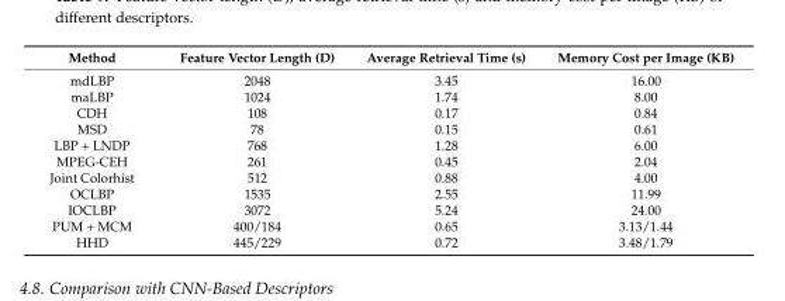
<table><thead><tr><td>Method</td><td>Feature Vector Length (D)</td><td>Average Retrieval Time (s)</td><td>Memory Cost per Image (KB)</td></tr></thead><tbody><tr><td>mdLBP</td><td>2048</td><td>3.45</td><td>16.00</td></tr><tr><td>maLBP</td><td>1024</td><td>1.74</td><td>8.00</td></tr><tr><td>CDH</td><td>108</td><td>0.17</td><td>0.84</td></tr><tr><td>MSD</td><td>78</td><td>0.15</td><td>0.61</td></tr><tr><td>LBP + LNDP</td><td>768</td><td>1.28</td><td>6.00</td></tr><tr><td>MPEG-CEH</td><td>261</td><td>0.45</td><td>2.04</td></tr><tr><td>Joint Colorhist</td><td>512</td><td>0.88</td><td>4.00</td></tr><tr><td>OCLBP</td><td>1535</td><td>2.55</td><td>11.99</td></tr><tr><td>IOCLBP</td><td>3072</td><td>5.24</td><td>24.00</td></tr><tr><td>PUM + MCM</td><td>400/184</td><td>0.65</td><td>3.13/1.44</td></tr><tr><td>HHD</td><td>445/229</td><td>0.72</td><td>3.48/1.79</td></tr></tbody></table>